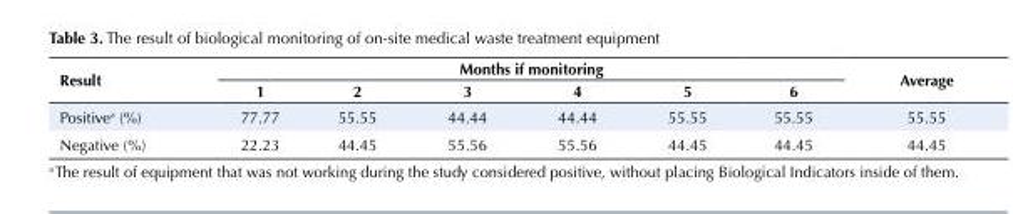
<table><tbody><tr><td rowspan="2">Result</td><td colspan="6">Months if monitoring</td><td rowspan="2">Average</td></tr><tr><td>1</td><td>2</td><td>3</td><td>4</td><td>5</td><td>6</td></tr><tr><td>Positive<sup>a</sup> (%)</td><td>77.77</td><td>55.55</td><td>44.44</td><td>44.44</td><td>55.55</td><td>55.55</td><td>55.55</td></tr><tr><td>Negative (%)</td><td>22.23</td><td>44.45</td><td>55.56</td><td>55.56</td><td>44.45</td><td>44.45</td><td>44.45</td></tr></tbody></table>